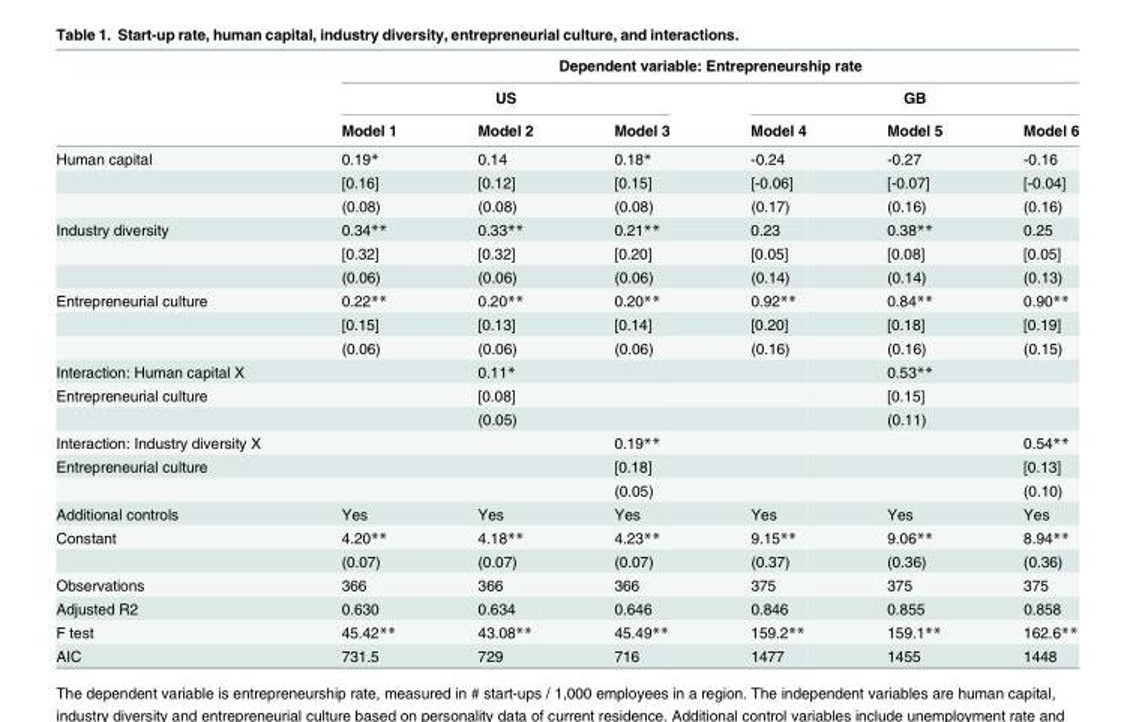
<table><thead><tr><td rowspan="3"></td><td colspan="6">Dependent variable: Entrepreneurship rate</td></tr><tr><td colspan="3">US</td><td colspan="3">GB</td></tr><tr><td>Model 1</td><td>Model 2</td><td>Model 3</td><td>Model 4</td><td>Model 5</td><td>Model 6</td></tr></thead><tbody><tr><td rowspan="3">Human capital</td><td>0.19*</td><td>0.14</td><td>0.18*</td><td>-0.24</td><td>-0.27</td><td>-0.16</td></tr><tr><td>[0.16]</td><td>[0.12]</td><td>[0.15]</td><td>[-0.06]</td><td>[-0.07]</td><td>[-0.04]</td></tr><tr><td>(0.08)</td><td>(0.08)</td><td>(0.08)</td><td>(0.17)</td><td>(0.16)</td><td>(0.16)</td></tr><tr><td rowspan="3">Industry diversity</td><td>0.34**</td><td>0.33**</td><td>0.21**</td><td>0.23</td><td>0.38**</td><td>0.25</td></tr><tr><td>[0.32]</td><td>[0.32]</td><td>[0.20]</td><td>[0.05]</td><td>[0.08]</td><td>[0.05]</td></tr><tr><td>(0.06)</td><td>(0.06)</td><td>(0.06)</td><td>(0.14)</td><td>(0.14)</td><td>(0.13)</td></tr><tr><td rowspan="3">Entrepreneurial culture</td><td>0.22**</td><td>0.20**</td><td>0.20**</td><td>0.92**</td><td>0.84**</td><td>0.90**</td></tr><tr><td>[0.15]</td><td>[0.13]</td><td>[0.14]</td><td>[0.20]</td><td>[0.18]</td><td>[0.19]</td></tr><tr><td>(0.06)</td><td>(0.06)</td><td>(0.06)</td><td>(0.16)</td><td>(0.16)</td><td>(0.15)</td></tr><tr><td>Interaction: Human capital X</td><td></td><td>0.11*</td><td></td><td></td><td>0.53**</td><td></td></tr><tr><td rowspan="2">Entrepreneurial culture</td><td></td><td>[0.08]</td><td></td><td></td><td>[0.15]</td><td></td></tr><tr><td></td><td>(0.05)</td><td></td><td></td><td>(0.11)</td><td></td></tr><tr><td>Interaction: Industry diversity X</td><td></td><td></td><td>0.19**</td><td></td><td></td><td>0.54**</td></tr><tr><td rowspan="2">Entrepreneurial culture</td><td></td><td></td><td>[0.18]</td><td></td><td></td><td>[0.13]</td></tr><tr><td></td><td></td><td>(0.05)</td><td></td><td></td><td>(0.10)</td></tr><tr><td>Additional controls</td><td>Yes</td><td>Yes</td><td>Yes</td><td>Yes</td><td>Yes</td><td>Yes</td></tr><tr><td rowspan="2">Constant</td><td>4.20**</td><td>4.18**</td><td>4.23**</td><td>9.15**</td><td>9.06**</td><td>8.94**</td></tr><tr><td>(0.07)</td><td>(0.07)</td><td>(0.07)</td><td>(0.37)</td><td>(0.36)</td><td>(0.36)</td></tr><tr><td>Observations</td><td>366</td><td>366</td><td>366</td><td>375</td><td>375</td><td>375</td></tr><tr><td>Adjusted R2</td><td>0.630</td><td>0.634</td><td>0.646</td><td>0.846</td><td>0.855</td><td>0.858</td></tr><tr><td>F test</td><td>45.42**</td><td>43.08**</td><td>45.49**</td><td>159.2**</td><td>159.1**</td><td>162.6**</td></tr><tr><td>AIC</td><td>731.5</td><td>729</td><td>716</td><td>1477</td><td>1455</td><td>1448</td></tr></tbody></table>